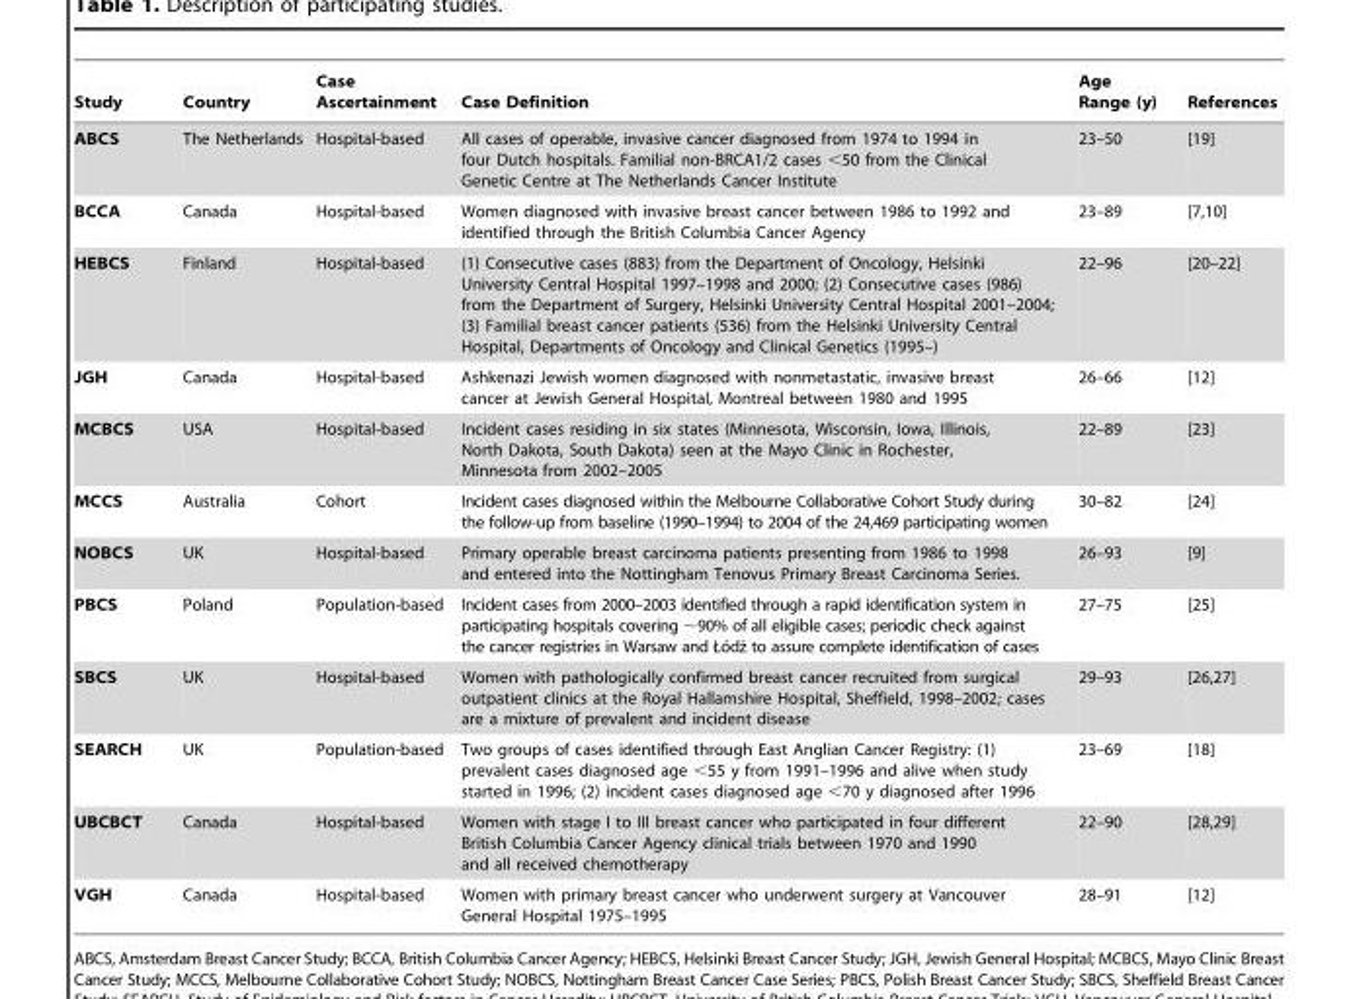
<table><thead><tr><td>Study</td><td>Country</td><td>Case Ascertainment</td><td>Case Definition</td><td>Age Range (y)</td><td>References</td></tr></thead><tbody><tr><td>ABCS</td><td>The Netherlands</td><td>Hospital-based</td><td>All cases of operable, invasive cancer diagnosed from 1974 to 1994 in four Dutch hospitals. Familial non-BRCA1/2 cases &lt;50 from the Clinical Genetic Centre at The Netherlands Cancer Institute</td><td>23–50</td><td>[19]</td></tr><tr><td>BCCA</td><td>Canada</td><td>Hospital-based</td><td>Women diagnosed with invasive breast cancer between 1986 to 1992 and identified through the British Columbia Cancer Agency</td><td>23–89</td><td>[7,10]</td></tr><tr><td>HEBCS</td><td>Finland</td><td>Hospital-based</td><td>(1) Consecutive cases (883) from the Department of Oncology, Helsinki University Central Hospital 1997–1998 and 2000; (2) Consecutive cases (986) from the Department of Surgery, Helsinki University Central Hospital 2001–2004; (3) Familial breast cancer patients (536) from the Helsinki University Central Hospital, Departments of Oncology and Clinical Genetics (1995–)</td><td>22–96</td><td>[20–22]</td></tr><tr><td>JGH</td><td>Canada</td><td>Hospital-based</td><td>Ashkenazi Jewish women diagnosed with nonmetastatic, invasive breast cancer at Jewish General Hospital, Montreal between 1980 and 1995</td><td>26–66</td><td>[12]</td></tr><tr><td>MCBCS</td><td>USA</td><td>Hospital-based</td><td>Incident cases residing in six states (Minnesota, Wisconsin, Iowa, Illinois, North Dakota, South Dakota) seen at the Mayo Clinic in Rochester, Minnesota from 2002–2005</td><td>22–89</td><td>[23]</td></tr><tr><td>MCCS</td><td>Australia</td><td>Cohort</td><td>Incident cases diagnosed within the Melbourne Collaborative Cohort Study during the follow-up from baseline (1990–1994) to 2004 of the 24,469 participating women</td><td>30–82</td><td>[24]</td></tr><tr><td>NOBCS</td><td>UK</td><td>Hospital-based</td><td>Primary operable breast carcinoma patients presenting from 1986 to 1998 and entered into the Nottingham Tenovus Primary Breast Carcinoma Series.</td><td>26–93</td><td>[9]</td></tr><tr><td>PBCS</td><td>Poland</td><td>Population-based</td><td>Incident cases from 2000–2003 identified through a rapid identification system in participating hospitals covering ,90% of all eligible cases; periodic check against the cancer registries in Warsaw and Ło´dz´ to assure complete identification of cases</td><td>27–75</td><td>[25]</td></tr><tr><td>SBCS</td><td>UK</td><td>Hospital-based</td><td>Women with pathologically confirmed breast cancer recruited from surgical outpatient clinics at the Royal Hallamshire Hospital, Sheffield, 1998–2002; cases are a mixture of prevalent and incident disease</td><td>29–93</td><td>[26,27]</td></tr><tr><td>SEARCH</td><td>UK</td><td>Population-based</td><td>Two groups of cases identified through East Anglian Cancer Registry: (1) prevalent cases diagnosed age &lt;55 y from 1991–1996 and alive when study started in 1996; (2) incident cases diagnosed age &lt;70 y diagnosed after 1996</td><td>23–69</td><td>[18]</td></tr><tr><td>UBCBCT</td><td>Canada</td><td>Hospital-based</td><td>Women with stage I to III breast cancer who participated in four different British Columbia Cancer Agency clinical trials between 1970 and 1990 and all received chemotherapy</td><td>22–90</td><td>[28,29]</td></tr><tr><td>VGH</td><td>Canada</td><td>Hospital-based</td><td>Women with primary breast cancer who underwent surgery at Vancouver General Hospital 1975–1995</td><td>28–91</td><td>[12]</td></tr></tbody></table>